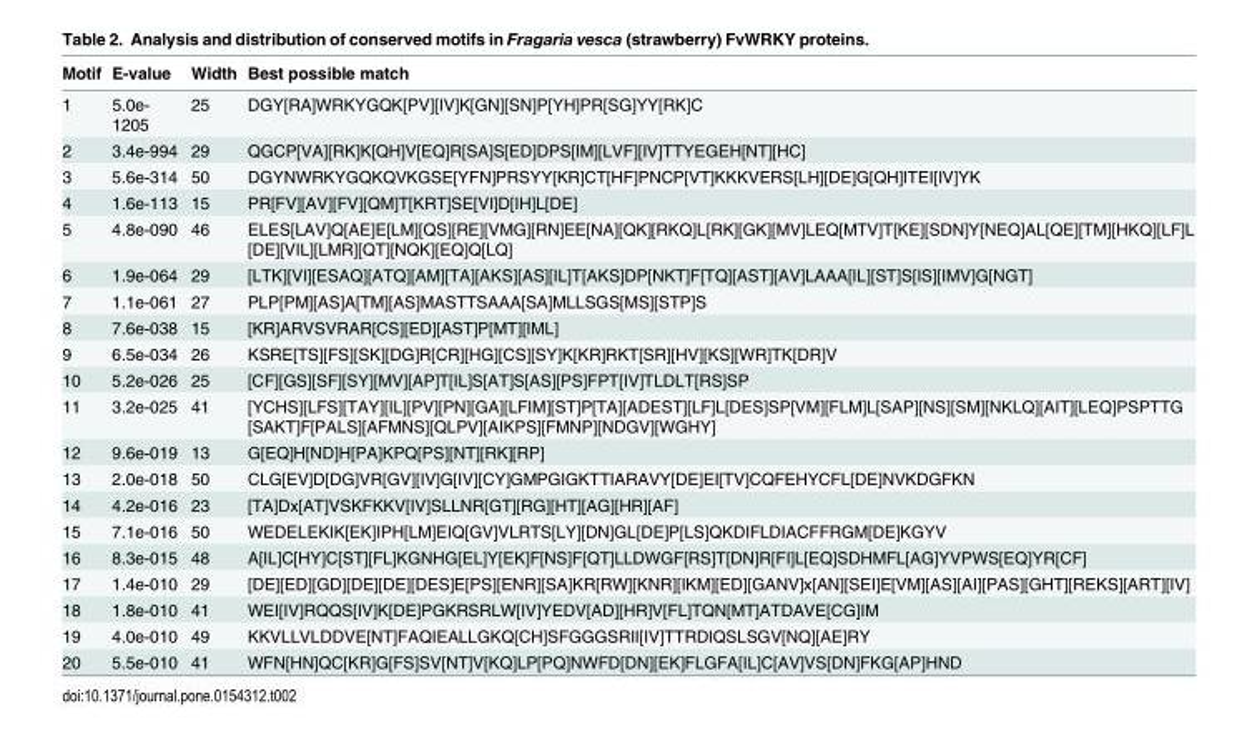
<table><thead><tr><td>Motif</td><td>E-value</td><td>Width</td><td>Best possible match</td></tr></thead><tbody><tr><td>1</td><td>5.0e- 1205</td><td>25</td><td>DGY[RA]WRKYGQK[PV][IV]K[GN][SN]P[YH]PR[SG]YY[RK]C</td></tr><tr><td>2</td><td>3.4e-994</td><td>29</td><td>QGCP[VA][RK]K[QH]V[EQ]R[SA]S[ED]DPS[IM][LVF][IV]TTYEGEH[NT][HC]</td></tr><tr><td>3</td><td>5.6e-314</td><td>50</td><td>DGYNWRKYGQKQVKGSE[YFN]PRSYY[KR]CT[HF]PNCP[VT]KKKVERS[LH][DE]G[QH]ITEI[IV]YK</td></tr><tr><td>4</td><td>1.6e-113</td><td>15</td><td>PR[FV][AV][FV][QM]T[KRT]SE[VI]D[IH]L[DE]</td></tr><tr><td>5</td><td>4.8e-090</td><td>46</td><td>ELES[LAV]Q[AE]E[LM][QS][RE][VMG][RN]EE[NA][QK][RKQ]L[RK][GK][MV]LEQ[MTV]T[KE][SDN]Y[NEQ]AL[QE][TM][HKQ][LF]L [DE][VIL][LMR][QT][NQK][EQ]Q[LQ]</td></tr><tr><td>6</td><td>1.9e-064</td><td>29</td><td>[LTK][VI][ESAQ][ATQ][AM][TA][AKS][AS][IL]T[AKS]DP[NKT]F[TQ][AST][AV]LAAA[IL][ST]S[IS][IMV]G[NGT]</td></tr><tr><td>7</td><td>1.1e-061</td><td>27</td><td>PLP[PM][AS]A[TM][AS]MASTTSAAA[SA]MLLSGS[MS][STP]S</td></tr><tr><td>8</td><td>7.6e-038</td><td>15</td><td>[KR]ARVSVRAR[CS][ED][AST]P[MT][IML]</td></tr><tr><td>9</td><td>6.5e-034</td><td>26</td><td>KSRE[TS][FS][SK][DG]R[CR][HG][CS][SY]K[KR]RKT[SR][HV][KS][WR]TK[DR]V</td></tr><tr><td>10</td><td>5.2e-026</td><td>25</td><td>[CF][GS][SF][SY][MV][AP]T[IL]S[AT]S[AS][PS]FPT[IV]TLDLT[RS]SP</td></tr><tr><td>11</td><td>3.2e-025</td><td>41</td><td>[YCHS][LFS][TAY][IL][PV][PN][GA][LFIM][ST]P[TA][ADEST][LF]L[DES]SP[VM][FLM]L[SAP][NS][SM][NKLQ][AIT][LEQ]PSPTTG [SAKT]F[PALS][AFMNS][QLPV][AIKPS][FMNP][NDGV][WGHY]</td></tr><tr><td>12</td><td>9.6e-019</td><td>13</td><td>G[EQ]H[ND]H[PA]KPQ[PS][NT][RK][RP]</td></tr><tr><td>13</td><td>2.0e-018</td><td>50</td><td>CLG[EV]D[DG]VR[GV][IV]G[IV][CY]GMPGIGKTTIARAVY[DE]EI[TV]CQFEHYCFL[DE]NVKDGFKN</td></tr><tr><td>14</td><td>4.2e-016</td><td>23</td><td>[TA]Dx[AT]VSKFKKV[IV]SLLNR[GT][RG][HT][AG][HR][AF]</td></tr><tr><td>15</td><td>7.1e-016</td><td>50</td><td>WEDELEKIK[EK]IPH[LM]EIQ[GV]VLRTS[LY][DN]GL[DE]P[LS]QKDIFLDIACFFRGM[DE]KGYV</td></tr><tr><td>16</td><td>8.3e-015</td><td>48</td><td>A[IL]C[HY]C[ST][FL]KGNHG[EL]Y[EK]F[NS]F[QT]LLDWGF[RS]T[DN]R[FI]L[EQ]SDHMFL[AG]YVPWS[EQ]YR[CF]</td></tr><tr><td>17</td><td>1.4e-010</td><td>29</td><td>[DE][ED][GD][DE][DE][DES]E[PS][ENR][SA]KR[RW][KNR][IKM][ED][GANV]x[AN][SEI]E[VM][AS][AI][PAS][GHT][REKS][ART][IV]</td></tr><tr><td>18</td><td>1.8e-010</td><td>41</td><td>WEI[IV]RQQS[IV]K[DE]PGKRSRLW[IV]YEDV[AD][HR]V[FL]TQN[MT]ATDAVE[CG]IM</td></tr><tr><td>19</td><td>4.0e-010</td><td>49</td><td>KKVLLVLDDVE[NT]FAQIEALLGKQ[CH]SFGGGSRII[IV]TTRDIQSLSGV[NQ][AE]RY</td></tr><tr><td>20</td><td>5.5e-010</td><td>41</td><td>WFN[HN]QC[KR]G[FS]SV[NT]V[KQ]LP[PQ]NWFD[DN][EK]FLGFA[IL]C[AV]VS[DN]FKG[AP]HND</td></tr></tbody></table>